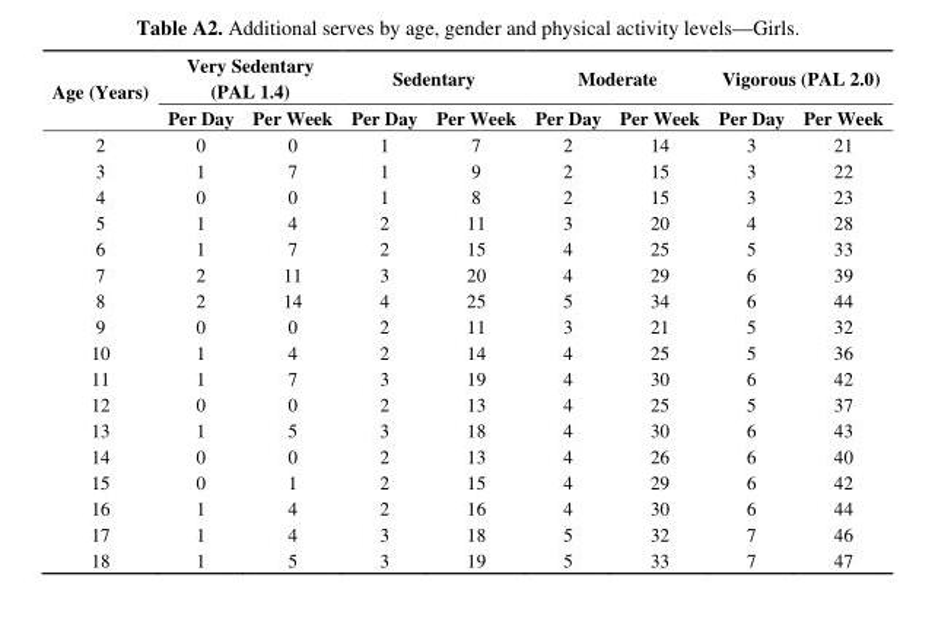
<table><thead><tr><td rowspan="2">Age (Years)</td><td colspan="2">Very Sedentary (PAL 1.4)</td><td colspan="2">Sedentary</td><td colspan="2">Moderate</td><td colspan="2">Vigorous (PAL 2.0)</td></tr><tr><td>Per Day</td><td>Per Week</td><td>Per Day</td><td>Per Week</td><td>Per Day</td><td>Per Week</td><td>Per Day</td><td>Per Week</td></tr></thead><tbody><tr><td>2</td><td>0</td><td>0</td><td>1</td><td>7</td><td>2</td><td>14</td><td>3</td><td>21</td></tr><tr><td>3</td><td>1</td><td>7</td><td>1</td><td>9</td><td>2</td><td>15</td><td>3</td><td>22</td></tr><tr><td>4</td><td>0</td><td>0</td><td>1</td><td>8</td><td>2</td><td>15</td><td>3</td><td>23</td></tr><tr><td>5</td><td>1</td><td>4</td><td>2</td><td>11</td><td>3</td><td>20</td><td>4</td><td>28</td></tr><tr><td>6</td><td>1</td><td>7</td><td>2</td><td>15</td><td>4</td><td>25</td><td>5</td><td>33</td></tr><tr><td>7</td><td>2</td><td>11</td><td>3</td><td>20</td><td>4</td><td>29</td><td>6</td><td>39</td></tr><tr><td>8</td><td>2</td><td>14</td><td>4</td><td>25</td><td>5</td><td>34</td><td>6</td><td>44</td></tr><tr><td>9</td><td>0</td><td>0</td><td>2</td><td>11</td><td>3</td><td>21</td><td>5</td><td>32</td></tr><tr><td>10</td><td>1</td><td>4</td><td>2</td><td>14</td><td>4</td><td>25</td><td>5</td><td>36</td></tr><tr><td>11</td><td>1</td><td>7</td><td>3</td><td>19</td><td>4</td><td>30</td><td>6</td><td>42</td></tr><tr><td>12</td><td>0</td><td>0</td><td>2</td><td>13</td><td>4</td><td>25</td><td>5</td><td>37</td></tr><tr><td>13</td><td>1</td><td>5</td><td>3</td><td>18</td><td>4</td><td>30</td><td>6</td><td>43</td></tr><tr><td>14</td><td>0</td><td>0</td><td>2</td><td>13</td><td>4</td><td>26</td><td>6</td><td>40</td></tr><tr><td>15</td><td>0</td><td>1</td><td>2</td><td>15</td><td>4</td><td>29</td><td>6</td><td>42</td></tr><tr><td>16</td><td>1</td><td>4</td><td>2</td><td>16</td><td>4</td><td>30</td><td>6</td><td>44</td></tr><tr><td>17</td><td>1</td><td>4</td><td>3</td><td>18</td><td>5</td><td>32</td><td>7</td><td>46</td></tr><tr><td>18</td><td>1</td><td>5</td><td>3</td><td>19</td><td>5</td><td>33</td><td>7</td><td>47</td></tr></tbody></table>